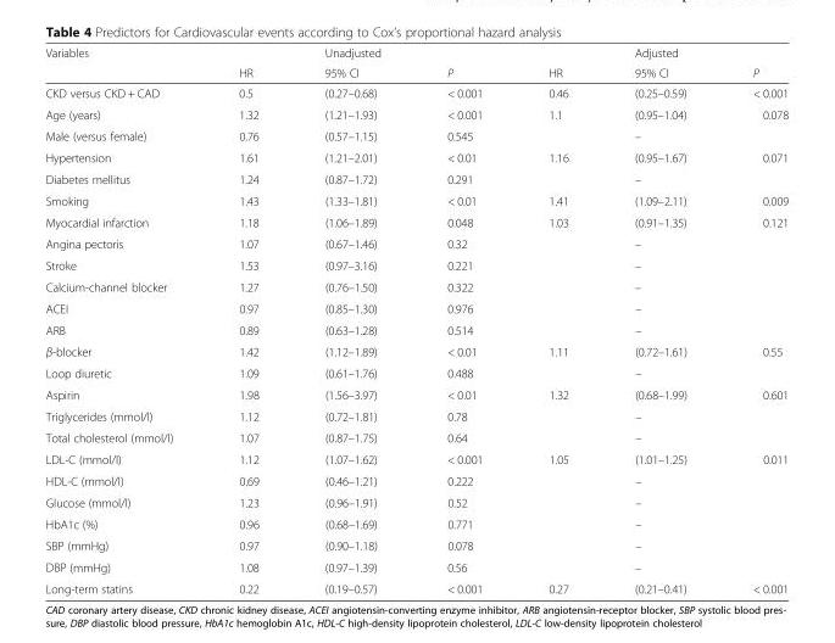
<table><thead><tr><td rowspan="2">Variables</td><td rowspan="2">HR</td><td rowspan="2">Unadjusted 95% CI</td><td rowspan="2">P</td><td rowspan="2">HR</td><td rowspan="2">Adjusted 95% CI</td><td rowspan="2">P</td></tr><tr></tr></thead><tbody><tr><td>CKD versus CKD + CAD</td><td>0.5</td><td>(0.27–0.68)</td><td>&lt; 0.001</td><td>0.46</td><td>(0.25–0.59)</td><td>&lt; 0.001</td></tr><tr><td>Age (years)</td><td>1.32</td><td>(1.21–1.93)</td><td>&lt; 0.001</td><td>1.1</td><td>(0.95–1.04)</td><td>0.078</td></tr><tr><td>Male (versus female)</td><td>0.76</td><td>(0.57–1.15)</td><td>0.545</td><td></td><td>–</td><td></td></tr><tr><td>Hypertension</td><td>1.61</td><td>(1.21–2.01)</td><td>&lt; 0.01</td><td>1.16</td><td>(0.95–1.67)</td><td>0.071</td></tr><tr><td>Diabetes mellitus</td><td>1.24</td><td>(0.87–1.72)</td><td>0.291</td><td></td><td>–</td><td></td></tr><tr><td>Smoking</td><td>1.43</td><td>(1.33–1.81)</td><td>&lt; 0.01</td><td>1.41</td><td>(1.09–2.11)</td><td>0.009</td></tr><tr><td>Myocardial infarction</td><td>1.18</td><td>(1.06–1.89)</td><td>0.048</td><td>1.03</td><td>(0.91–1.35)</td><td>0.121</td></tr><tr><td>Angina pectoris</td><td>1.07</td><td>(0.67–1.46)</td><td>0.32</td><td></td><td>–</td><td></td></tr><tr><td>Stroke</td><td>1.53</td><td>(0.97–3.16)</td><td>0.221</td><td></td><td>–</td><td></td></tr><tr><td>Calcium-channel blocker</td><td>1.27</td><td>(0.76–1.50)</td><td>0.322</td><td></td><td>–</td><td></td></tr><tr><td>ACEI</td><td>0.97</td><td>(0.85–1.30)</td><td>0.976</td><td></td><td>–</td><td></td></tr><tr><td>ARB</td><td>0.89</td><td>(0.63–1.28)</td><td>0.514</td><td></td><td>–</td><td></td></tr><tr><td>β-blocker</td><td>1.42</td><td>(1.12–1.89)</td><td>&lt; 0.01</td><td>1.11</td><td>(0.72–1.61)</td><td>0.55</td></tr><tr><td>Loop diuretic</td><td>1.09</td><td>(0.61–1.76)</td><td>0.488</td><td></td><td>–</td><td></td></tr><tr><td>Aspirin</td><td>1.98</td><td>(1.56–3.97)</td><td>&lt; 0.01</td><td>1.32</td><td>(0.68–1.99)</td><td>0.601</td></tr><tr><td>Triglycerides (mmol/l)</td><td>1.12</td><td>(0.72–1.81)</td><td>0.78</td><td></td><td>–</td><td></td></tr><tr><td>Total cholesterol (mmol/l)</td><td>1.07</td><td>(0.87–1.75)</td><td>0.64</td><td></td><td>–</td><td></td></tr><tr><td>LDL-C (mmol/l)</td><td>1.12</td><td>(1.07–1.62)</td><td>&lt; 0.001</td><td>1.05</td><td>(1.01–1.25)</td><td>0.011</td></tr><tr><td>HDL-C (mmol/l)</td><td>0.69</td><td>(0.46–1.21)</td><td>0.222</td><td></td><td>–</td><td></td></tr><tr><td>Glucose (mmol/l)</td><td>1.23</td><td>(0.96–1.91)</td><td>0.52</td><td></td><td>–</td><td></td></tr><tr><td>HbA1c (%)</td><td>0.96</td><td>(0.68–1.69)</td><td>0.771</td><td></td><td>–</td><td></td></tr><tr><td>SBP (mmHg)</td><td>0.97</td><td>(0.90–1.18)</td><td>0.078</td><td></td><td>–</td><td></td></tr><tr><td>DBP (mmHg)</td><td>1.08</td><td>(0.97–1.39)</td><td>0.56</td><td></td><td>–</td><td></td></tr><tr><td>Long-term statins</td><td>0.22</td><td>(0.19–0.57)</td><td>&lt; 0.001</td><td>0.27</td><td>(0.21–0.41)</td><td>&lt; 0.001</td></tr></tbody></table>